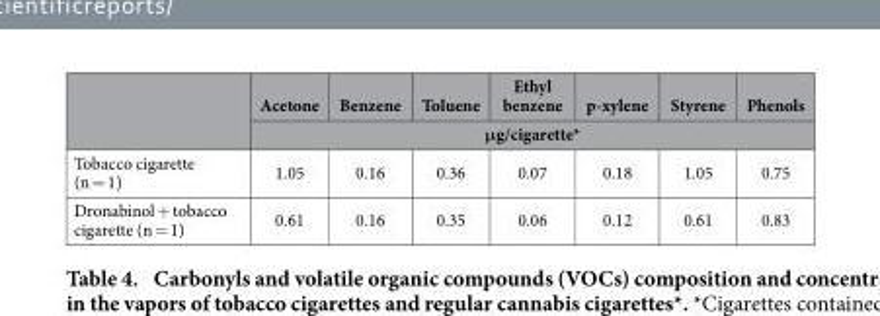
<table><thead><tr><td rowspan="2"></td><td>Acetone</td><td>Benzene</td><td>Toluene</td><td>Ethyl benzene</td><td>p-xylene</td><td>Styrene</td><td>Phenols</td></tr><tr><td colspan="7">μg/cigarette*</td></tr></thead><tbody><tr><td>Tobacco cigarette (n = 1)</td><td>1.05</td><td>0.16</td><td>0.36</td><td>0.07</td><td>0.18</td><td>1.05</td><td>0.75</td></tr><tr><td>Dronabinol + tobacco cigarette (n = 1)</td><td>0.61</td><td>0.16</td><td>0.35</td><td>0.06</td><td>0.12</td><td>0.61</td><td>0.83</td></tr></tbody></table>